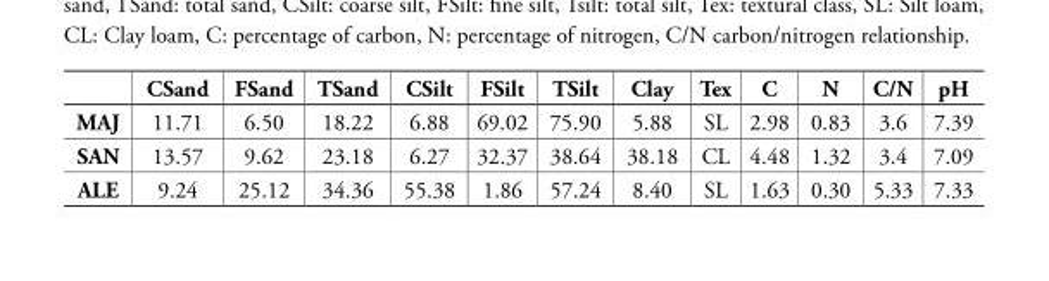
<table><thead><tr><td></td><td>CSand</td><td>FSand</td><td>TSand</td><td>CSilt</td><td>FSilt</td><td>TSilt</td><td>Clay</td><td>Tex</td><td>C</td><td>N</td><td>C/N</td><td>pH</td></tr></thead><tbody><tr><td>MAJ</td><td>11.71</td><td>6.50</td><td>18.22</td><td>6.88</td><td>69.02</td><td>75.90</td><td>5.88</td><td>SL</td><td>2.98</td><td>0.83</td><td>3.6</td><td>7.39</td></tr><tr><td>SAN</td><td>13.57</td><td>9.62</td><td>23.18</td><td>6.27</td><td>32.37</td><td>38.64</td><td>38.18</td><td>CL</td><td>4.48</td><td>1.32</td><td>3.4</td><td>7.09</td></tr><tr><td>ALE</td><td>9.24</td><td>25.12</td><td>34.36</td><td>55.38</td><td>1.86</td><td>57.24</td><td>8.40</td><td>SL</td><td>1.63</td><td>0.30</td><td>5.33</td><td>7.33</td></tr></tbody></table>